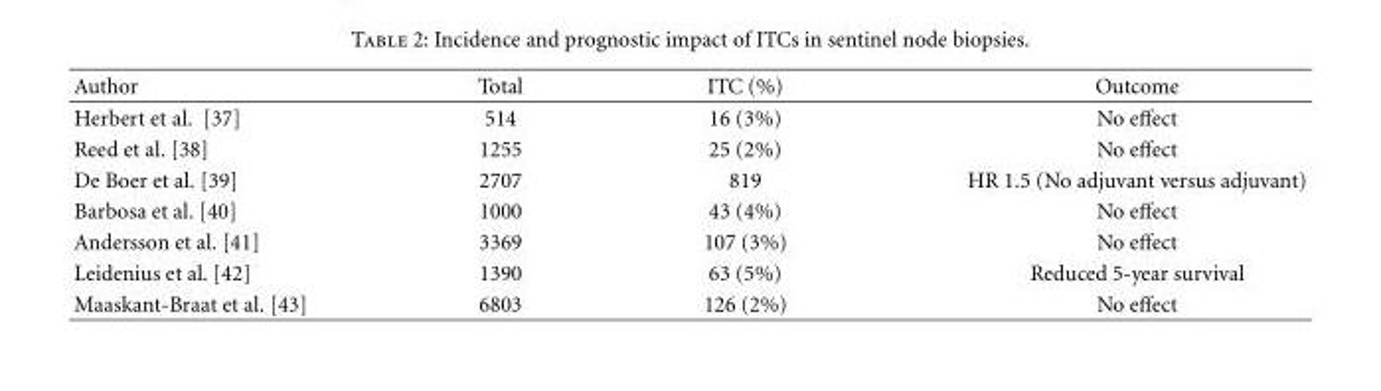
<table><thead><tr><td>Author</td><td>Total</td><td>ITC (%)</td><td>Outcome</td></tr></thead><tbody><tr><td>Herbert et al. [37]</td><td>514</td><td>16 (3%)</td><td>No effect</td></tr><tr><td>Reed et al. [38]</td><td>1255</td><td>25 (2%)</td><td>No effect</td></tr><tr><td>De Boer et al. [39]</td><td>2707</td><td>819</td><td>HR 1.5 (No adjuvant versus adjuvant)</td></tr><tr><td>Barbosa et al. [40]</td><td>1000</td><td>43 (4%)</td><td>No effect</td></tr><tr><td>Andersson et al. [41]</td><td>3369</td><td>107 (3%)</td><td>No effect</td></tr><tr><td>Leidenius et al. [42]</td><td>1390</td><td>63 (5%)</td><td>Reduced 5-year survival</td></tr><tr><td>Maaskant-Braat et al. [43]</td><td>6803</td><td>126 (2%)</td><td>No effect</td></tr></tbody></table>